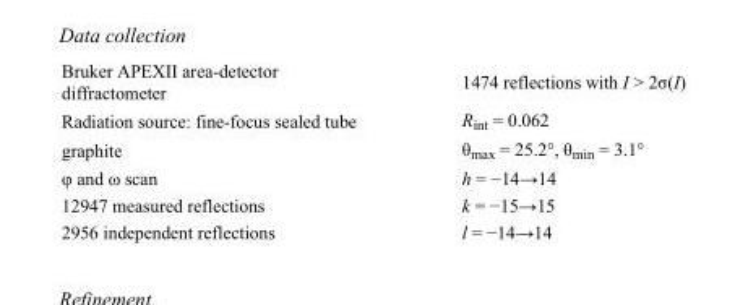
<table><tbody><tr><td>Bruker APEXII area-detector diffractometer</td><td>1474 reflections with I &gt; 2σ(I)</td></tr><tr><td>Radiation source: fine-focus sealed tube</td><td>R<sub>int</sub> = 0.062</td></tr><tr><td>graphite</td><td>θ<sub>max</sub> = 25.2°, θ<sub>min</sub> = 3.1°</td></tr><tr><td>φ and ω scan</td><td>h = −14→14</td></tr><tr><td>12947 measured reflections</td><td>k = −15→15</td></tr><tr><td>2956 independent reflections</td><td>l = −14→14</td></tr></tbody></table>